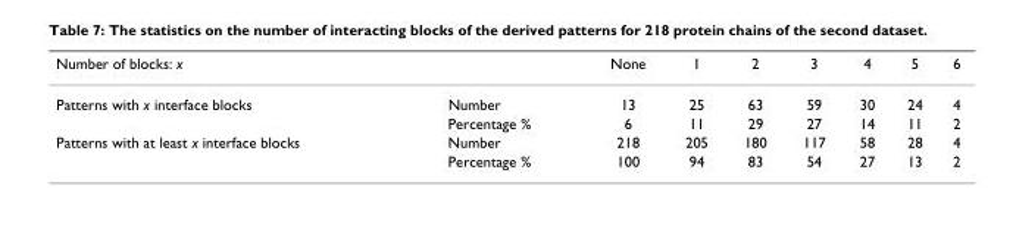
<table><thead><tr><td>Number of blocks: x</td><td></td><td>None</td><td>1</td><td>2</td><td>3</td><td>4</td><td>5</td><td>6</td></tr></thead><tbody><tr><td rowspan="2">Patterns with x interface blocks</td><td>Number</td><td>13</td><td>25</td><td>63</td><td>59</td><td>30</td><td>24</td><td>4</td></tr><tr><td>Percentage %</td><td>6</td><td>11</td><td>29</td><td>27</td><td>14</td><td>11</td><td>2</td></tr><tr><td rowspan="2">Patterns with at least x interface blocks</td><td>Number</td><td>218</td><td>205</td><td>180</td><td>117</td><td>58</td><td>28</td><td>4</td></tr><tr><td>Percentage %</td><td>100</td><td>94</td><td>83</td><td>54</td><td>27</td><td>13</td><td>2</td></tr></tbody></table>